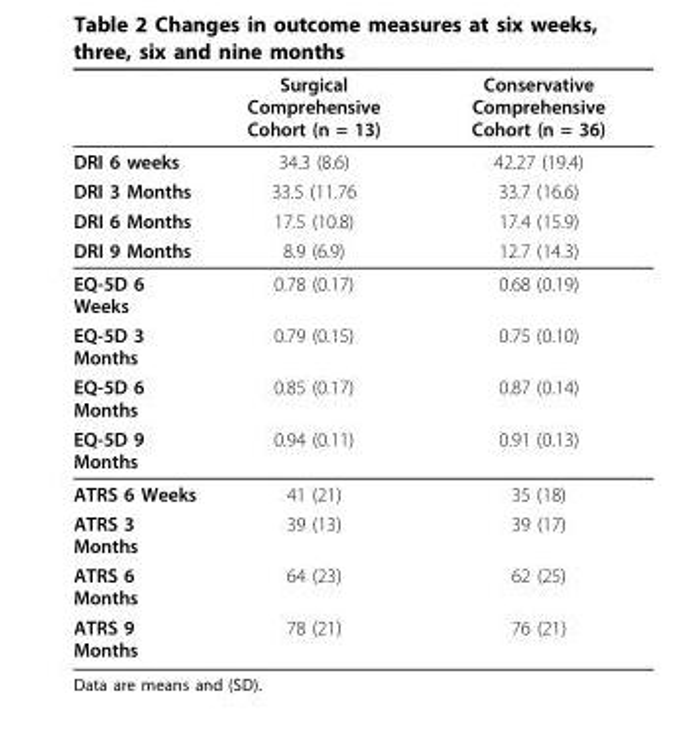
<table><thead><tr><td></td><td>Surgical Comprehensive Cohort (n = 13)</td><td>Conservative Comprehensive Cohort (n = 36)</td></tr></thead><tbody><tr><td>DRI 6 weeks</td><td>34.3 (8.6)</td><td>42.27 (19.4)</td></tr><tr><td>DRI 3 Months</td><td>33.5 (11.76</td><td>33.7 (16.6)</td></tr><tr><td>DRI 6 Months</td><td>17.5 (10.8)</td><td>17.4 (15.9)</td></tr><tr><td>DRI 9 Months</td><td>8.9 (6.9)</td><td>12.7 (14.3)</td></tr><tr><td>EQ-5D 6 Weeks</td><td>0.78 (0.17)</td><td>0.68 (0.19)</td></tr><tr><td>EQ-5D 3 Months</td><td>0.79 (0.15)</td><td>0.75 (0.10)</td></tr><tr><td>EQ-5D 6 Months</td><td>0.85 (0.17)</td><td>0.87 (0.14)</td></tr><tr><td>EQ-5D 9 Months</td><td>0.94 (0.11)</td><td>0.91 (0.13)</td></tr><tr><td>ATRS 6 Weeks</td><td>41 (21)</td><td>35 (18)</td></tr><tr><td>ATRS 3 Months</td><td>39 (13)</td><td>39 (17)</td></tr><tr><td>ATRS 6 Months</td><td>64 (23)</td><td>62 (25)</td></tr><tr><td>ATRS 9 Months</td><td>78 (21)</td><td>76 (21)</td></tr></tbody></table>